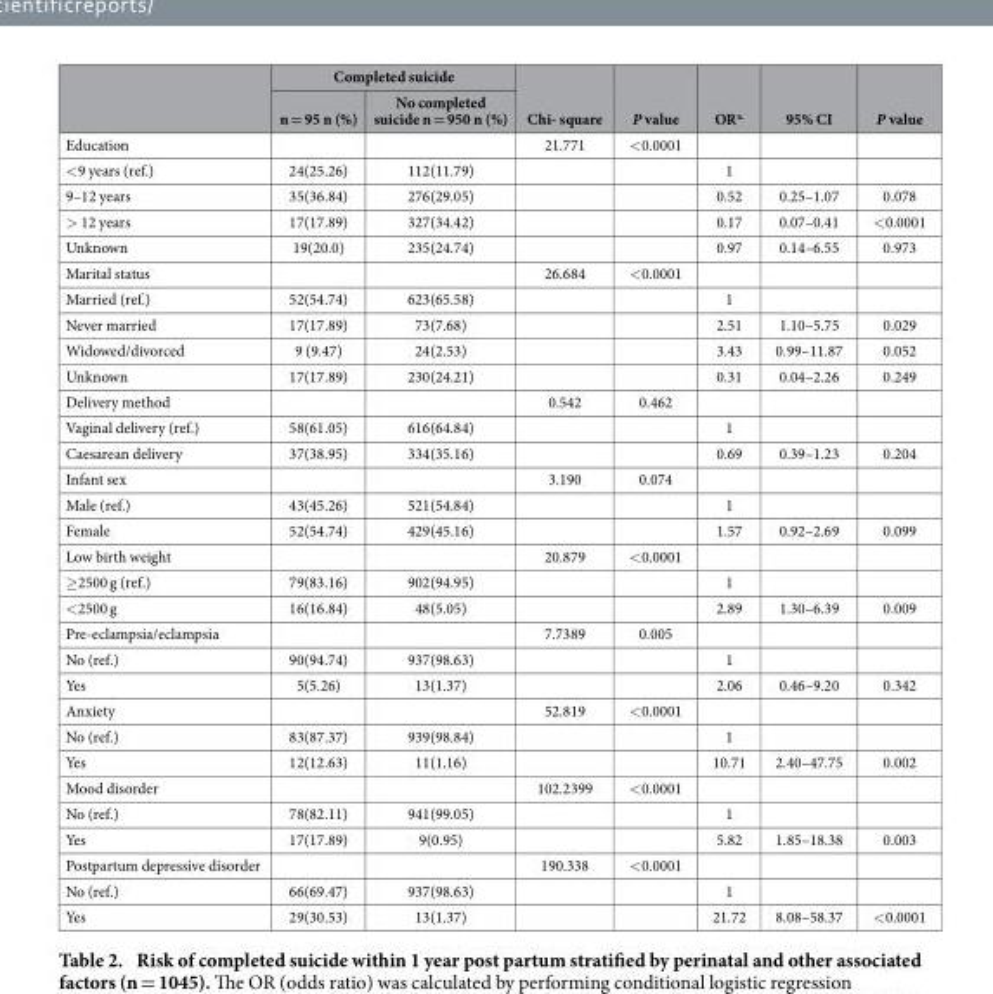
<table><thead><tr><td rowspan="2"></td><td colspan="2">Completed suicide</td><td rowspan="2">Chi- square</td><td rowspan="2">P value</td><td rowspan="2">OR<sup>a.</sup></td><td rowspan="2">95% CI</td><td rowspan="2">P value</td></tr><tr><td>n = 95 n (%)</td><td>No completed suicide n = 950 n (%)</td></tr></thead><tbody><tr><td>Education</td><td></td><td></td><td>21.771</td><td>&lt; 0.0001</td><td></td><td></td><td></td></tr><tr><td>&lt; 9 years (ref.)</td><td>24(25.26)</td><td>112(11.79)</td><td></td><td></td><td>1</td><td></td><td></td></tr><tr><td>9–12 years</td><td>35(36.84)</td><td>276(29.05)</td><td></td><td></td><td>0.52</td><td>0.25–1.07</td><td>0.078</td></tr><tr><td>&gt; 12 years</td><td>17(17.89)</td><td>327(34.42)</td><td></td><td></td><td>0.17</td><td>0.07–0.41</td><td>&lt; 0.0001</td></tr><tr><td>Unknown</td><td>19(20.0)</td><td>235(24.74)</td><td></td><td></td><td>0.97</td><td>0.14–6.55</td><td>0.973</td></tr><tr><td>Marital status</td><td></td><td></td><td>26.684</td><td>&lt; 0.0001</td><td></td><td></td><td></td></tr><tr><td>Married (ref.)</td><td>52(54.74)</td><td>623(65.58)</td><td></td><td></td><td>1</td><td></td><td></td></tr><tr><td>Never married</td><td>17(17.89)</td><td>73(7.68)</td><td></td><td></td><td>2.51</td><td>1.10–5.75</td><td>0.029</td></tr><tr><td>Widowed/divorced</td><td>9 (9.47)</td><td>24(2.53)</td><td></td><td></td><td>3.43</td><td>0.99–11.87</td><td>0.052</td></tr><tr><td>Unknown</td><td>17(17.89)</td><td>230(24.21)</td><td></td><td></td><td>0.31</td><td>0.04–2.26</td><td>0.249</td></tr><tr><td>Delivery method</td><td></td><td></td><td>0.542</td><td>0.462</td><td></td><td></td><td></td></tr><tr><td>Vaginal delivery (ref.)</td><td>58(61.05)</td><td>616(64.84)</td><td></td><td></td><td>1</td><td></td><td></td></tr><tr><td>Caesarean delivery</td><td>37(38.95)</td><td>334(35.16)</td><td></td><td></td><td>0.69</td><td>0.39–1.23</td><td>0.204</td></tr><tr><td>Infant sex</td><td></td><td></td><td>3.190</td><td>0.074</td><td></td><td></td><td></td></tr><tr><td>Male (ref.)</td><td>43(45.26)</td><td>521(54.84)</td><td></td><td></td><td>1</td><td></td><td></td></tr><tr><td>Female</td><td>52(54.74)</td><td>429(45.16)</td><td></td><td></td><td>1.57</td><td>0.92–2.69</td><td>0.099</td></tr><tr><td>Low birth weight</td><td></td><td></td><td>20.879</td><td>&lt; 0.0001</td><td></td><td></td><td></td></tr><tr><td>≥ 2500 g (ref.)</td><td>79(83.16)</td><td>902(94.95)</td><td></td><td></td><td>1</td><td></td><td></td></tr><tr><td>&lt; 2500 g</td><td>16(16.84)</td><td>48(5.05)</td><td></td><td></td><td>2.89</td><td>1.30–6.39</td><td>0.009</td></tr><tr><td>Pre-eclampsia/eclampsia</td><td></td><td></td><td>7.7389</td><td>0.005</td><td></td><td></td><td></td></tr><tr><td>No (ref.)</td><td>90(94.74)</td><td>937(98.63)</td><td></td><td></td><td>1</td><td></td><td></td></tr><tr><td>Yes</td><td>5(5.26)</td><td>13(1.37)</td><td></td><td></td><td>2.06</td><td>0.46–9.20</td><td>0.342</td></tr><tr><td>Anxiety</td><td></td><td></td><td>52.819</td><td>&lt; 0.0001</td><td></td><td></td><td></td></tr><tr><td>No (ref.)</td><td>83(87.37)</td><td>939(98.84)</td><td></td><td></td><td>1</td><td></td><td></td></tr><tr><td>Yes</td><td>12(12.63)</td><td>11(1.16)</td><td></td><td></td><td>10.71</td><td>2.40–47.75</td><td>0.002</td></tr><tr><td>Mood disorder</td><td></td><td></td><td>102.2399</td><td>&lt; 0.0001</td><td></td><td></td><td></td></tr><tr><td>No (ref.)</td><td>78(82.11)</td><td>941(99.05)</td><td></td><td></td><td>1</td><td></td><td></td></tr><tr><td>Yes</td><td>17(17.89)</td><td>9(0.95)</td><td></td><td></td><td>5.82</td><td>1.85–18.38</td><td>0.003</td></tr><tr><td>Postpartum depressive disorder</td><td></td><td></td><td>190.338</td><td>&lt; 0.0001</td><td></td><td></td><td></td></tr><tr><td>No (ref.)</td><td>66(69.47)</td><td>937(98.63)</td><td></td><td></td><td>1</td><td></td><td></td></tr><tr><td>Yes</td><td>29(30.53)</td><td>13(1.37)</td><td></td><td></td><td>21.72</td><td>8.08–58.37</td><td>&lt; 0.0001</td></tr></tbody></table>